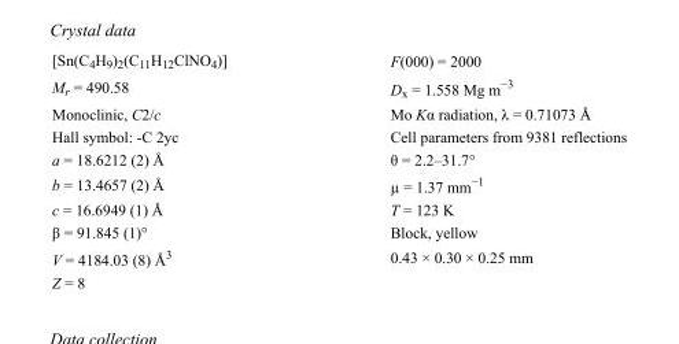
<table><tbody><tr><td>[Sn(C<sub>4</sub>H<sub>9</sub>)<sub>2</sub>(C<sub>11</sub>H<sub>12</sub>ClNO<sub>4</sub>)]</td><td>F(000) = 2000</td></tr><tr><td>M<sub>r</sub> = 490.58</td><td>D<sub>x</sub> = 1.558 Mg m<sup>−3</sup></td></tr><tr><td>Monoclinic, C2/c</td><td>Mo Kα radiation, λ = 0.71073 Å</td></tr><tr><td>Hall symbol: -C 2yc</td><td>Cell parameters from 9381 reflections</td></tr><tr><td>a = 18.6212 (2) Å</td><td>θ = 2.2–31.7°</td></tr><tr><td>b = 13.4657 (2) Å</td><td>µ = 1.37 mm<sup>−1</sup></td></tr><tr><td>c = 16.6949 (1) Å</td><td>T = 123 K</td></tr><tr><td>β = 91.845 (1)°</td><td>Block, yellow</td></tr><tr><td>V = 4184.03 (8) Å<sup>3</sup></td><td>0.43 × 0.30 × 0.25 mm</td></tr><tr><td>Z = 8</td><td></td></tr></tbody></table>